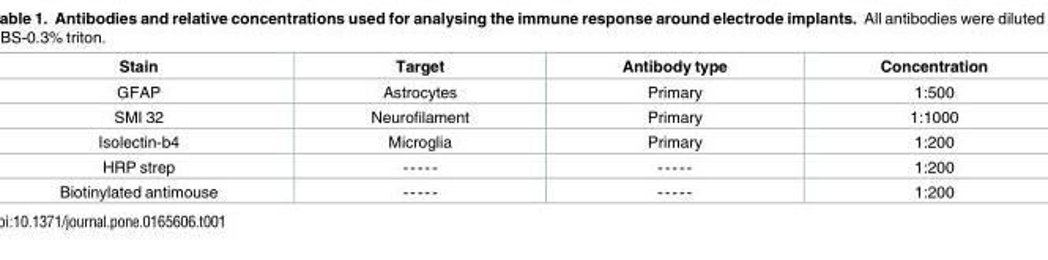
<table><thead><tr><td>Stain</td><td>Target</td><td>Antibody type</td><td>Concentration</td></tr></thead><tbody><tr><td>GFAP</td><td>Astrocytes</td><td>Primary</td><td>1:500</td></tr><tr><td>SMI 32</td><td>Neurofilament</td><td>Primary</td><td>1:1000</td></tr><tr><td>Isolectin-b4</td><td>Microglia</td><td>Primary</td><td>1:200</td></tr><tr><td>HRP strep</td><td>-----</td><td>-----</td><td>1:200</td></tr><tr><td>Biotinylated antimouse</td><td>-----</td><td>-----</td><td>1:200</td></tr></tbody></table>